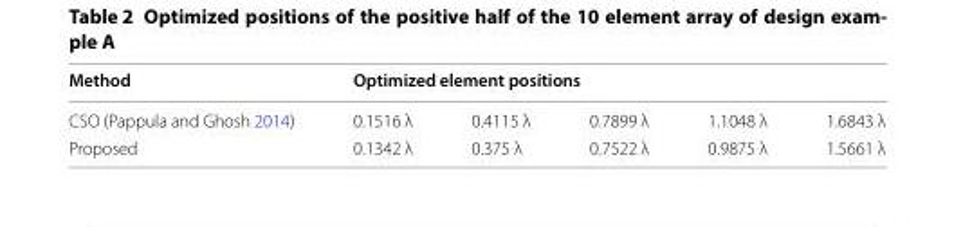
<table><thead><tr><td rowspan="2">Method CSO (Pappula and Ghosh 2014)</td><td colspan="5">Optimized element positions</td></tr><tr><td>0.1516 λ</td><td>0.4115 λ</td><td>0.7899 λ</td><td>1.1048 λ</td><td>1.6843 λ</td></tr></thead><tbody><tr><td>Proposed</td><td>0.1342 λ</td><td>0.375 λ</td><td>0.7522 λ</td><td>0.9875 λ</td><td>1.5661 λ</td></tr></tbody></table>